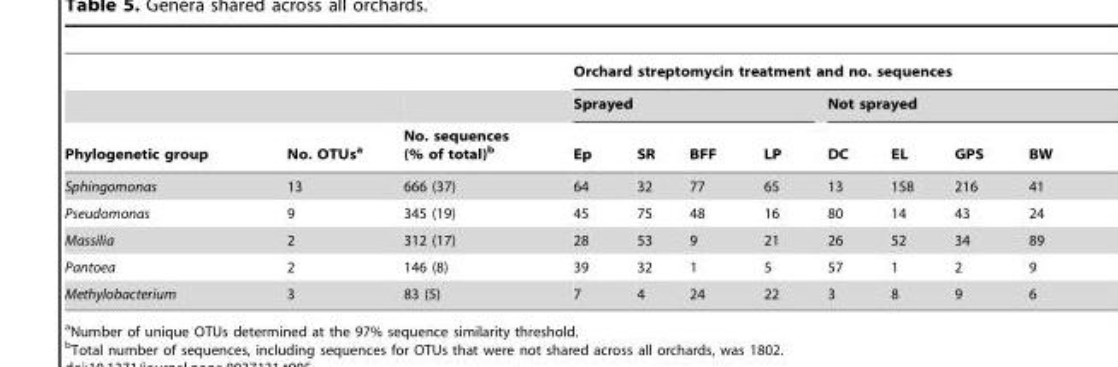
<table><thead><tr><td rowspan="3">Phylogenetic group</td><td rowspan="3">No. OTUs<sup>a</sup></td><td rowspan="3">No. sequences (% of total)<sup>b</sup></td><td colspan="8">Orchard streptomycin treatment and no. sequences</td></tr><tr><td colspan="4">Sprayed</td><td colspan="4">Not sprayed</td></tr><tr><td>Ep</td><td>SR</td><td>BFF</td><td>LP</td><td>DC</td><td>EL</td><td>GPS</td><td>BW</td></tr></thead><tbody><tr><td>Sphingomonas</td><td>13</td><td>666 (37)</td><td>64</td><td>32</td><td>77</td><td>65</td><td>13</td><td>158</td><td>216</td><td>41</td></tr><tr><td>Pseudomonas</td><td>9</td><td>345 (19)</td><td>45</td><td>75</td><td>48</td><td>16</td><td>80</td><td>14</td><td>43</td><td>24</td></tr><tr><td>Massilia</td><td>2</td><td>312 (17)</td><td>28</td><td>53</td><td>9</td><td>21</td><td>26</td><td>52</td><td>34</td><td>89</td></tr><tr><td>Pantoea</td><td>2</td><td>146 (8)</td><td>39</td><td>32</td><td>1</td><td>5</td><td>57</td><td>1</td><td>2</td><td>9</td></tr><tr><td>Methylobacterium</td><td>3</td><td>83 (5)</td><td>7</td><td>4</td><td>24</td><td>22</td><td>3</td><td>8</td><td>9</td><td>6</td></tr></tbody></table>